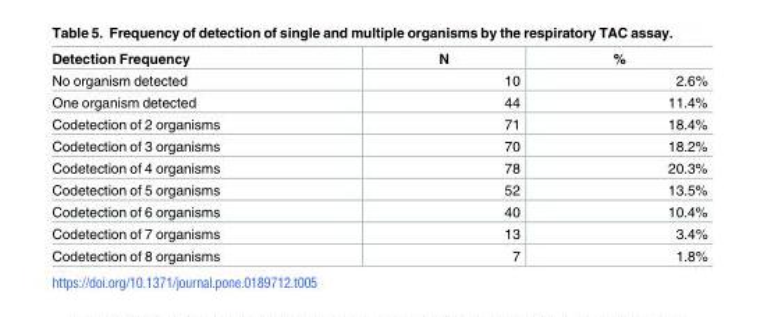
<table><thead><tr><td>Detection Frequency</td><td>N</td><td>%</td></tr></thead><tbody><tr><td>No organism detected</td><td>10</td><td>2.6%</td></tr><tr><td>One organism detected</td><td>44</td><td>11.4%</td></tr><tr><td>Codetection of 2 organisms</td><td>71</td><td>18.4%</td></tr><tr><td>Codetection of 3 organisms</td><td>70</td><td>18.2%</td></tr><tr><td>Codetection of 4 organisms</td><td>78</td><td>20.3%</td></tr><tr><td>Codetection of 5 organisms</td><td>52</td><td>13.5%</td></tr><tr><td>Codetection of 6 organisms</td><td>40</td><td>10.4%</td></tr><tr><td>Codetection of 7 organisms</td><td>13</td><td>3.4%</td></tr><tr><td>Codetection of 8 organisms</td><td>7</td><td>1.8%</td></tr></tbody></table>